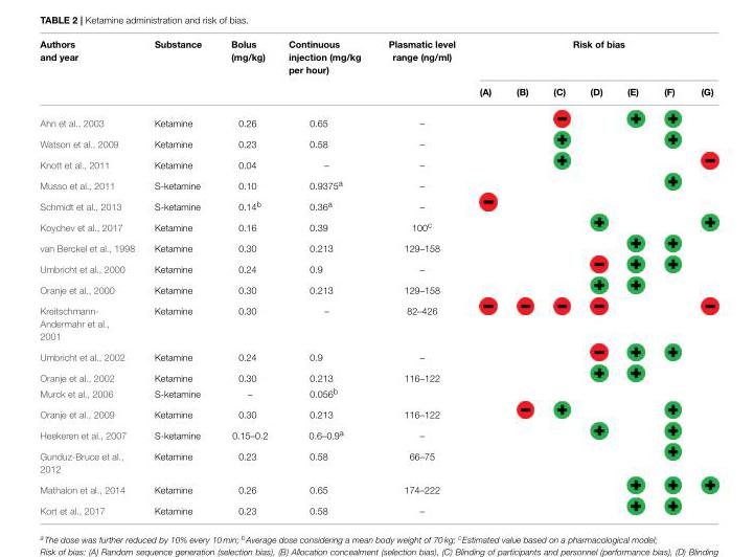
<table><thead><tr><td rowspan="2">Authors and year</td><td rowspan="2">Substance</td><td rowspan="2">Bolus (mg/kg)</td><td rowspan="2">Continuous injection (mg/kg per hour)</td><td rowspan="2">Plasmatic level range (ng/ml)</td><td colspan="7">Risk of bias</td></tr><tr><td>(A)</td><td>(B)</td><td>(C)</td><td>(D)</td><td>(E)</td><td>(F)</td><td>(G)</td></tr></thead><tbody><tr><td>Ahn et al., 2003</td><td>Ketamine</td><td>0.26</td><td>0.65</td><td>–</td><td></td><td></td><td></td><td></td><td></td><td></td><td></td></tr><tr><td>Watson et al., 2009</td><td>Ketamine</td><td>0.23</td><td>0.58</td><td>–</td><td></td><td></td><td></td><td></td><td></td><td></td><td></td></tr><tr><td>Knott et al., 2011</td><td>Ketamine</td><td>0.04</td><td>–</td><td>–</td><td></td><td></td><td></td><td></td><td></td><td></td><td></td></tr><tr><td>Musso et al., 2011</td><td>S-ketamine</td><td>0.10</td><td>0.9375<sup>a</sup></td><td>–</td><td></td><td></td><td></td><td></td><td></td><td></td><td></td></tr><tr><td>Schmidt et al., 2013</td><td>S-ketamine</td><td>0.14<sup>b</sup></td><td>0.36<sup>a</sup></td><td>–</td><td></td><td></td><td></td><td></td><td></td><td></td><td></td></tr><tr><td>Koychev et al., 2017</td><td>Ketamine</td><td>0.16</td><td>0.39</td><td>100<sup>c</sup></td><td></td><td></td><td></td><td></td><td></td><td></td><td></td></tr><tr><td>van Berckel et al., 1998</td><td>Ketamine</td><td>0.30</td><td>0.213</td><td>129–158</td><td></td><td></td><td></td><td></td><td></td><td></td><td></td></tr><tr><td>Umbricht et al., 2000</td><td>Ketamine</td><td>0.24</td><td>0.9</td><td>–</td><td></td><td></td><td></td><td></td><td></td><td></td><td></td></tr><tr><td>Oranje et al., 2000</td><td>Ketamine</td><td>0.30</td><td>0.213</td><td>129–158</td><td></td><td></td><td></td><td></td><td></td><td></td><td></td></tr><tr><td>Kreitschmann- Andermahr et al., 2001</td><td>Ketamine</td><td>0.30</td><td>–</td><td>82–426</td><td></td><td></td><td></td><td></td><td></td><td></td><td></td></tr><tr><td>Umbricht et al., 2002</td><td>Ketamine</td><td>0.24</td><td>0.9</td><td>–</td><td></td><td></td><td></td><td></td><td></td><td></td><td></td></tr><tr><td>Oranje et al., 2002</td><td>Ketamine</td><td>0.30</td><td>0.213</td><td>116–122</td><td></td><td></td><td></td><td></td><td></td><td></td><td></td></tr><tr><td>Murck et al., 2006</td><td>S-ketamine</td><td>–</td><td>0.056<sup>b</sup></td><td></td><td></td><td></td><td></td><td></td><td></td><td></td><td></td></tr><tr><td>Oranje et al., 2009</td><td>Ketamine</td><td>0.30</td><td>0.213</td><td>116–122</td><td></td><td></td><td></td><td></td><td></td><td></td><td></td></tr><tr><td>Heekeren et al., 2007</td><td>S-ketamine</td><td>0.15–0.2</td><td>0.6–0.9<sup>a</sup></td><td>–</td><td></td><td></td><td></td><td></td><td></td><td></td><td></td></tr><tr><td>Gunduz-Bruce et al., 2012</td><td>Ketamine</td><td>0.23</td><td>0.58</td><td>66–75</td><td></td><td></td><td></td><td></td><td></td><td></td><td></td></tr><tr><td>Mathalon et al., 2014</td><td>Ketamine</td><td>0.26</td><td>0.65</td><td>174–222</td><td></td><td></td><td></td><td></td><td></td><td></td><td></td></tr><tr><td>Kort et al., 2017</td><td>Ketamine</td><td>0.23</td><td>0.58</td><td>–</td><td></td><td></td><td></td><td></td><td></td><td></td><td></td></tr></tbody></table>